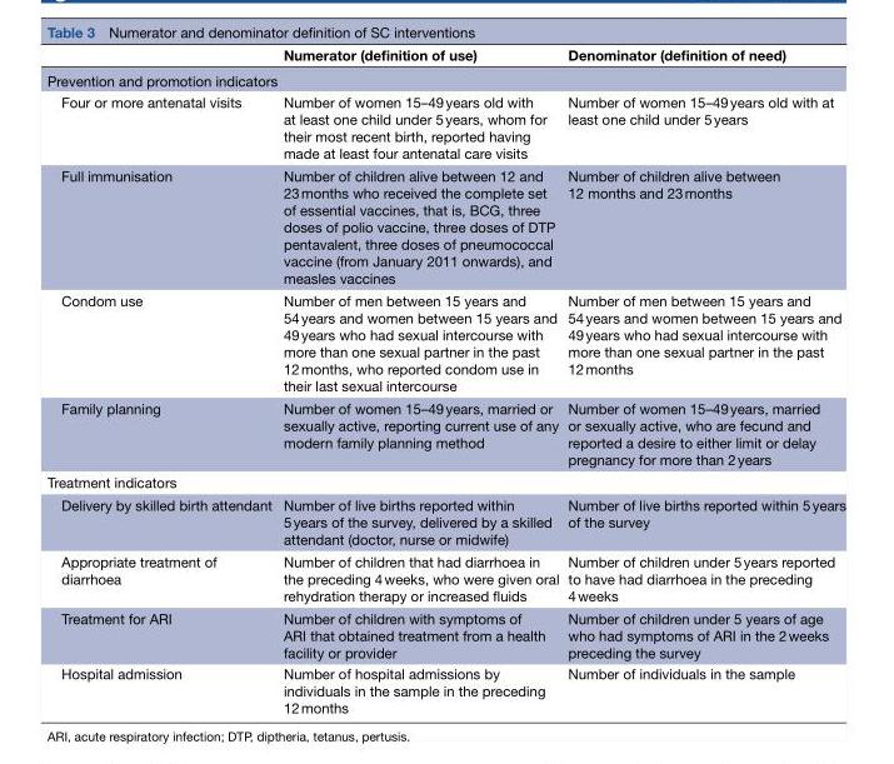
<table><thead><tr><td></td><td>Numerator (definition of use)</td><td>Denominator (definition of need)</td></tr></thead><tbody><tr><td colspan="3">Prevention and promotion indicators</td></tr><tr><td>Four or more antenatal visits</td><td>Number of women 15–49 years old with at least one child under 5 years, whom for their most recent birth, reported having made at least four antenatal care visits</td><td>Number of women 15–49 years old with at least one child under 5 years</td></tr><tr><td>Full immunisation</td><td>Number of children alive between 12 and 23 months who received the complete set of essential vaccines, that is, BCG, three doses of polio vaccine, three doses of DTP pentavalent, three doses of pneumococcal vaccine (from January 2011 onwards), and measles vaccines</td><td>Number of children alive between 12 months and 23 months</td></tr><tr><td>Condom use</td><td>Number of men between 15 years and 54 years and women between 15 years and 49 years who had sexual intercourse with more than one sexual partner in the past 12 months, who reported condom use in their last sexual intercourse</td><td>Number of men between 15 years and 54 years and women between 15 years and 49 years who had sexual intercourse with more than one sexual partner in the past 12 months</td></tr><tr><td>Family planning</td><td>Number of women 15–49 years, married or sexually active, reporting current use of any modern family planning method</td><td>Number of women 15–49 years, married or sexually active, who are fecund and reported a desire to either limit or delay pregnancy for more than 2 years</td></tr><tr><td colspan="3">Treatment indicators</td></tr><tr><td>Delivery by skilled birth attendant</td><td>Number of live births reported within 5 years of the survey, delivered by a skilled attendant (doctor, nurse or midwife)</td><td>Number of live births reported within 5 years of the survey</td></tr><tr><td>Appropriate treatment of diarrhoea</td><td>Number of children that had diarrhoea in the preceding 4 weeks, who were given oral rehydration therapy or increased fluids</td><td>Number of children under 5 years reported to have had diarrhoea in the preceding 4 weeks</td></tr><tr><td>Treatment for ARI</td><td>Number of children with symptoms of ARI that obtained treatment from a health facility or provider</td><td>Number of children under 5 years of age who had symptoms of ARI in the 2 weeks preceding the survey</td></tr><tr><td>Hospital admission</td><td>Number of hospital admissions by individuals in the sample in the preceding 12 months</td><td>Number of individuals in the sample</td></tr></tbody></table>